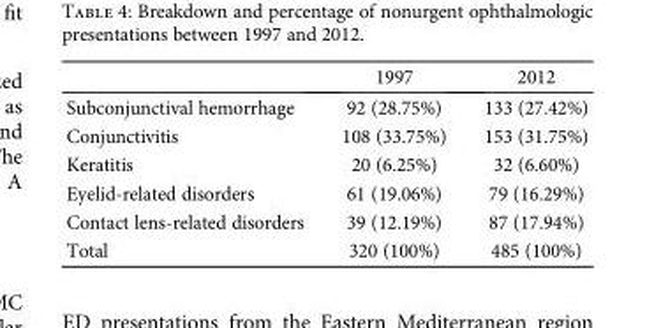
<table><thead><tr><td></td><td>1997</td><td>2012</td></tr></thead><tbody><tr><td>Subconjunctival hemorrhage</td><td>92 (28.75%)</td><td>133 (27.42%)</td></tr><tr><td>Conjunctivitis</td><td>108 (33.75%)</td><td>153 (31.75%)</td></tr><tr><td>Keratitis</td><td>20 (6.25%)</td><td>32 (6.60%)</td></tr><tr><td>Eyelid-related disorders</td><td>61 (19.06%)</td><td>79 (16.29%)</td></tr><tr><td>Contact lens-related disorders</td><td>39 (12.19%)</td><td>87 (17.94%)</td></tr><tr><td>Total</td><td>320 (100%)</td><td>485 (100%)</td></tr></tbody></table>